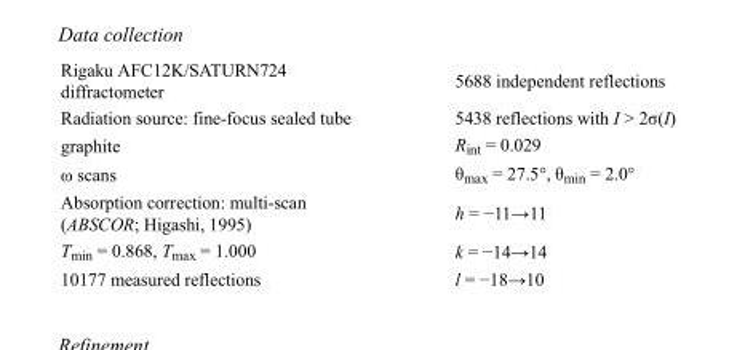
<table><tbody><tr><td>Rigaku AFC12K/SATURN724 diffractometer</td><td>5688 independent reflections</td></tr><tr><td>Radiation source: fine-focus sealed tube</td><td>5438 reflections with I &gt; 2σ(I)</td></tr><tr><td>graphite</td><td>R<sub>int</sub> = 0.029</td></tr><tr><td>ω scans</td><td>θ<sub>max</sub> = 27.5°, θ<sub>min</sub> = 2.0°</td></tr><tr><td>Absorption correction: multi-scan (ABSCOR; Higashi, 1995)</td><td>h = −11→11</td></tr><tr><td>T<sub>min</sub> = 0.868, T<sub>max</sub> = 1.000</td><td>k = −14→14</td></tr><tr><td>10177 measured reflections</td><td>l = −18→10</td></tr></tbody></table>